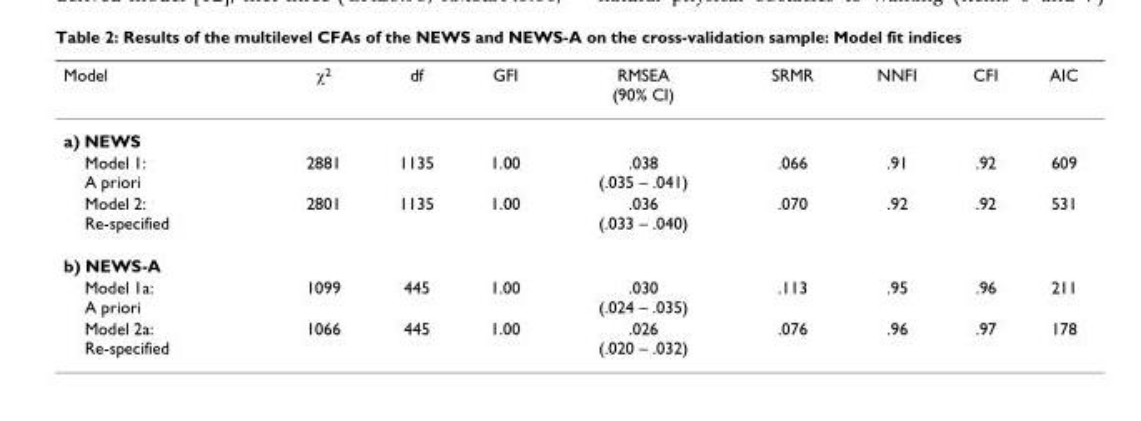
<table><thead><tr><td>Model</td><td>χ<sup>2</sup></td><td>df</td><td>GFI</td><td>RMSEA (90% CI)</td><td>SRMR</td><td>NNFI</td><td>CFI</td><td>AIC</td></tr></thead><tbody><tr><td colspan="9">a) NEWS</td></tr><tr><td>Model 1: A priori</td><td>2881</td><td>1135</td><td>1.00</td><td>.038 (.035 – .041)</td><td>.066</td><td>.91</td><td>.92</td><td>609</td></tr><tr><td>Model 2: Re-specified</td><td>2801</td><td>1135</td><td>1.00</td><td>.036 (.033 – .040)</td><td>.070</td><td>.92</td><td>.92</td><td>531</td></tr><tr><td colspan="9">b) NEWS-A</td></tr><tr><td>Model 1a: A priori</td><td>1099</td><td>445</td><td>1.00</td><td>.030 (.024 – .035)</td><td>.113</td><td>.95</td><td>.96</td><td>211</td></tr><tr><td>Model 2a: Re-specified</td><td>1066</td><td>445</td><td>1.00</td><td>.026 (.020 – .032)</td><td>.076</td><td>.96</td><td>.97</td><td>178</td></tr></tbody></table>